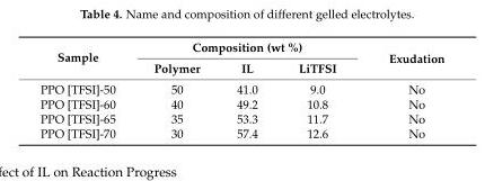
<table><thead><tr><td rowspan="2">Sample</td><td colspan="3">Composition (wt %)</td><td rowspan="2">Exudation</td></tr><tr><td>Polymer</td><td>IL</td><td>LiTFSI</td></tr></thead><tbody><tr><td>PPO [TFSI]-50</td><td>50</td><td>41.0</td><td>9.0</td><td>No</td></tr><tr><td>PPO [TFSI]-60</td><td>40</td><td>49.2</td><td>10.8</td><td>No</td></tr><tr><td>PPO [TFSI]-65</td><td>35</td><td>53.3</td><td>11.7</td><td>No</td></tr><tr><td>PPO [TFSI]-70</td><td>30</td><td>57.4</td><td>12.6</td><td>No</td></tr></tbody></table>